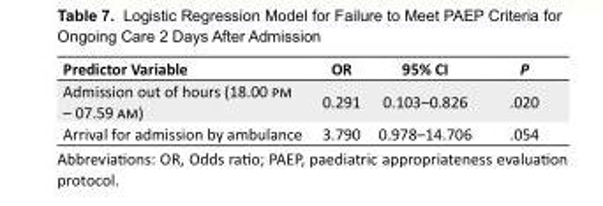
<table><tbody><tr><td>Predictor Variable</td><td>OR</td><td>95% CI</td><td>P</td></tr><tr><td>Admission out of hours (18.00 pm – 07.59 am)</td><td>0.291</td><td>0.103–0.826</td><td>.020</td></tr><tr><td>Arrival for admission by ambulance</td><td>3.790</td><td>0.978–14.706</td><td>.054</td></tr></tbody></table>